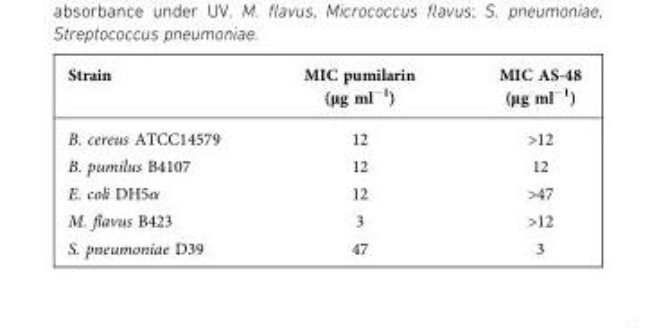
<table><thead><tr><td>Strain</td><td>MIC pumilarin (μg ml<sup>−1</sup>)</td><td>MIC AS-48 (μg ml<sup>−1</sup>)</td></tr></thead><tbody><tr><td>B. cereus ATCC14579</td><td>12</td><td>&gt;12</td></tr><tr><td>B. pumilus B4107</td><td>12</td><td>12</td></tr><tr><td>E. coli DH5α</td><td>12</td><td>&gt;47</td></tr><tr><td>M. flavus B423</td><td>3</td><td>&gt;12</td></tr><tr><td>S. pneumoniae D39</td><td>47</td><td>3</td></tr></tbody></table>